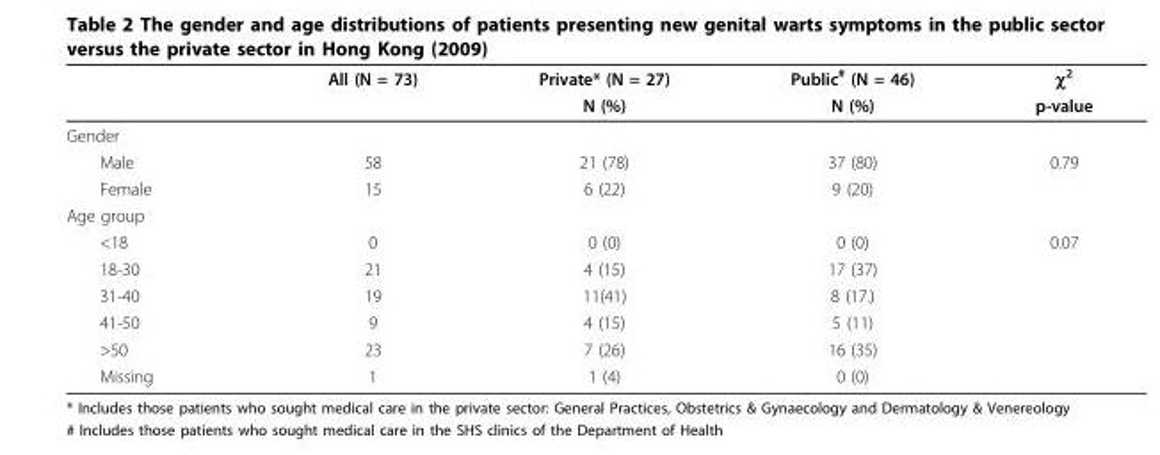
<table><thead><tr><td rowspan="2"></td><td rowspan="2">All (N = 73)</td><td rowspan="2">Private* (N = 27) N (%)</td><td rowspan="2">Public<sup>#</sup> (N = 46) N (%)</td><td rowspan="2">χ<sup>2</sup> p-value</td></tr><tr></tr></thead><tbody><tr><td colspan="5">Gender</td></tr><tr><td>Male</td><td>58</td><td>21 (78)</td><td>37 (80)</td><td>0.79</td></tr><tr><td>Female</td><td>15</td><td>6 (22)</td><td>9 (20)</td><td></td></tr><tr><td colspan="5">Age group</td></tr><tr><td>&lt;18</td><td>0</td><td>0 (0)</td><td>0 (0)</td><td>0.07</td></tr><tr><td>18-30</td><td>21</td><td>4 (15)</td><td>17 (37)</td><td></td></tr><tr><td>31-40</td><td>19</td><td>11(41)</td><td>8 (17.)</td><td></td></tr><tr><td>41-50</td><td>9</td><td>4 (15)</td><td>5 (11)</td><td></td></tr><tr><td>&gt;50</td><td>23</td><td>7 (26)</td><td>16 (35)</td><td></td></tr><tr><td>Missing</td><td>1</td><td>1 (4)</td><td>0 (0)</td><td></td></tr></tbody></table>